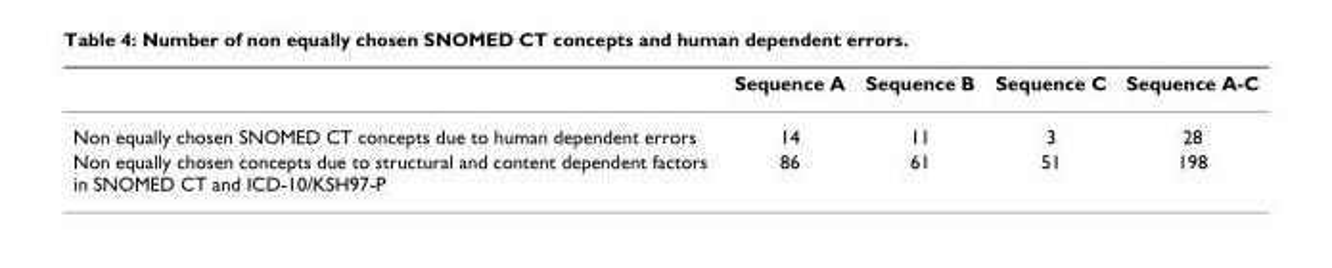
<table><thead><tr><td></td><td>Sequence A</td><td>Sequence B</td><td>Sequence C</td><td>Sequence A-C</td></tr></thead><tbody><tr><td>Non equally chosen SNOMED CT concepts due to human dependent errors</td><td>14</td><td>11</td><td>3</td><td>28</td></tr><tr><td>Non equally chosen concepts due to structural and content dependent factors in SNOMED CT and ICD-10/KSH97-P</td><td>86</td><td>61</td><td>51</td><td>198</td></tr></tbody></table>